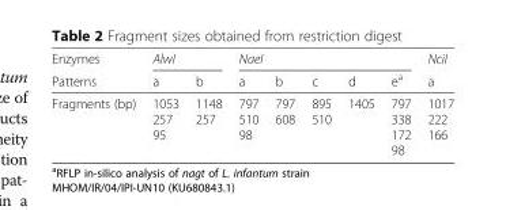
<table><thead><tr><td rowspan="2">Enzymes Patterns</td><td colspan="2">AlwI</td><td colspan="5">NaeI</td><td rowspan="2">NciI a</td></tr><tr><td>a</td><td>b</td><td>a</td><td>b</td><td>c</td><td>d</td><td>e<sup>a</sup></td></tr></thead><tbody><tr><td>Fragments (bp)</td><td>1053 257 95</td><td>1148 257</td><td>797 510 98</td><td>797 608</td><td>895 510</td><td>1405</td><td>797 338 172 98</td><td>1017 222 166</td></tr></tbody></table>